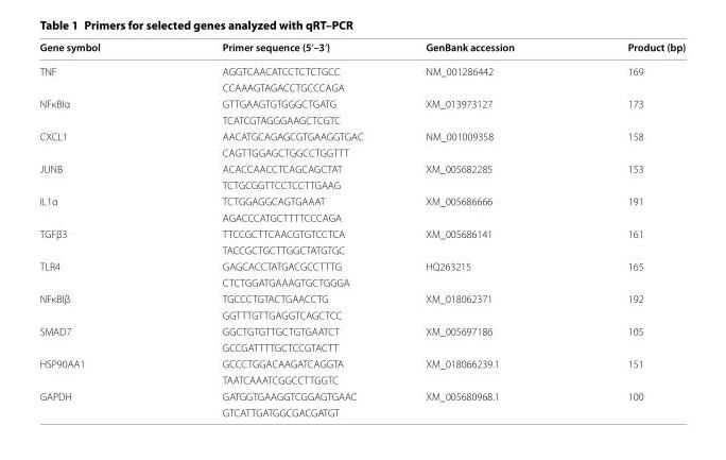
<table><thead><tr><td>Gene symbol</td><td>Primer sequence (5ʹ–3ʹ)</td><td>GenBank accession</td><td>Product (bp)</td></tr></thead><tbody><tr><td rowspan="2">TNF</td><td>AGGTCAACATCCTCTCTGCC</td><td>NM_001286442</td><td>169</td></tr><tr><td>CCAAAGTAGACCTGCCCAGA</td><td></td><td></td></tr><tr><td rowspan="2">NFκBIα</td><td>GTTGAAGTGTGGGCTGATG</td><td>XM_013973127</td><td>173</td></tr><tr><td>TCATCGTAGGGAAGCTCGTC</td><td></td><td></td></tr><tr><td rowspan="2">CXCL1</td><td>AACATGCAGAGCGTGAAGGTGAC</td><td>NM_001009358</td><td>158</td></tr><tr><td>CAGTTGGAGCTGGCCTGGTTT</td><td></td><td></td></tr><tr><td rowspan="2">JUNB</td><td>ACACCAACCTCAGCAGCTAT</td><td>XM_005682285</td><td>153</td></tr><tr><td>TCTGCGGTTCCTCCTTGAAG</td><td></td><td></td></tr><tr><td rowspan="2">IL1α</td><td>TCTGGAGGCAGTGAAAT</td><td>XM_005686666</td><td>191</td></tr><tr><td>AGACCCATGCTTTTCCCAGA</td><td></td><td></td></tr><tr><td rowspan="2">TGFβ3</td><td>TTCCGCTTCAACGTGTCCTCA</td><td>XM_005686141</td><td>161</td></tr><tr><td>TACCGCTGCTTGGCTATGTGC</td><td></td><td></td></tr><tr><td rowspan="2">TLR4</td><td>GAGCACCTATGACGCCTTTG</td><td>HQ263215</td><td>165</td></tr><tr><td>CTCTGGATGAAAGTGCTGGGA</td><td></td><td></td></tr><tr><td rowspan="2">NFκBIβ</td><td>TGCCCTGTACTGAACCTG</td><td>XM_018062371</td><td>192</td></tr><tr><td>GGTTTGTTGAGGTCAGCTCC</td><td></td><td></td></tr><tr><td rowspan="2">SMAD7</td><td>GGCTGTGTTGCTGTGAATCT</td><td>XM_005697186</td><td>105</td></tr><tr><td>GCCGATTTTGCTCCGTACTT</td><td></td><td></td></tr><tr><td rowspan="2">HSP90AA1</td><td>GCCCTGGACAAGATCAGGTA</td><td>XM_018066239.1</td><td>151</td></tr><tr><td>TAATCAAATCGGCCTTGGTC</td><td></td><td></td></tr><tr><td rowspan="2">GAPDH</td><td>GATGGTGAAGGTCGGAGTGAAC</td><td>XM_005680968.1</td><td>100</td></tr><tr><td>GTCATTGATGGCGACGATGT</td><td></td><td></td></tr></tbody></table>